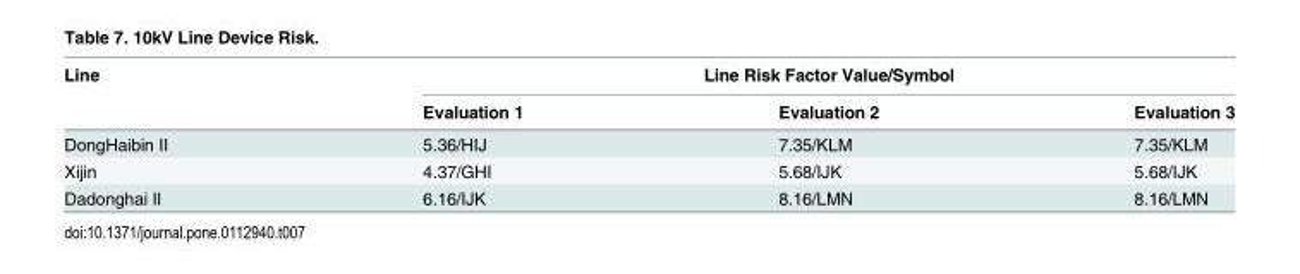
<table><thead><tr><td rowspan="2">Line</td><td colspan="3">Line Risk Factor Value/Symbol</td></tr><tr><td>Evaluation 1</td><td>Evaluation 2</td><td>Evaluation 3</td></tr></thead><tbody><tr><td>DongHaibin II</td><td>5.36/HIJ</td><td>7.35/KLM</td><td>7.35/KLM</td></tr><tr><td>Xijin</td><td>4.37/GHI</td><td>5.68/IJK</td><td>5.68/IJK</td></tr><tr><td>Dadonghai II</td><td>6.16/IJK</td><td>8.16/LMN</td><td>8.16/LMN</td></tr></tbody></table>